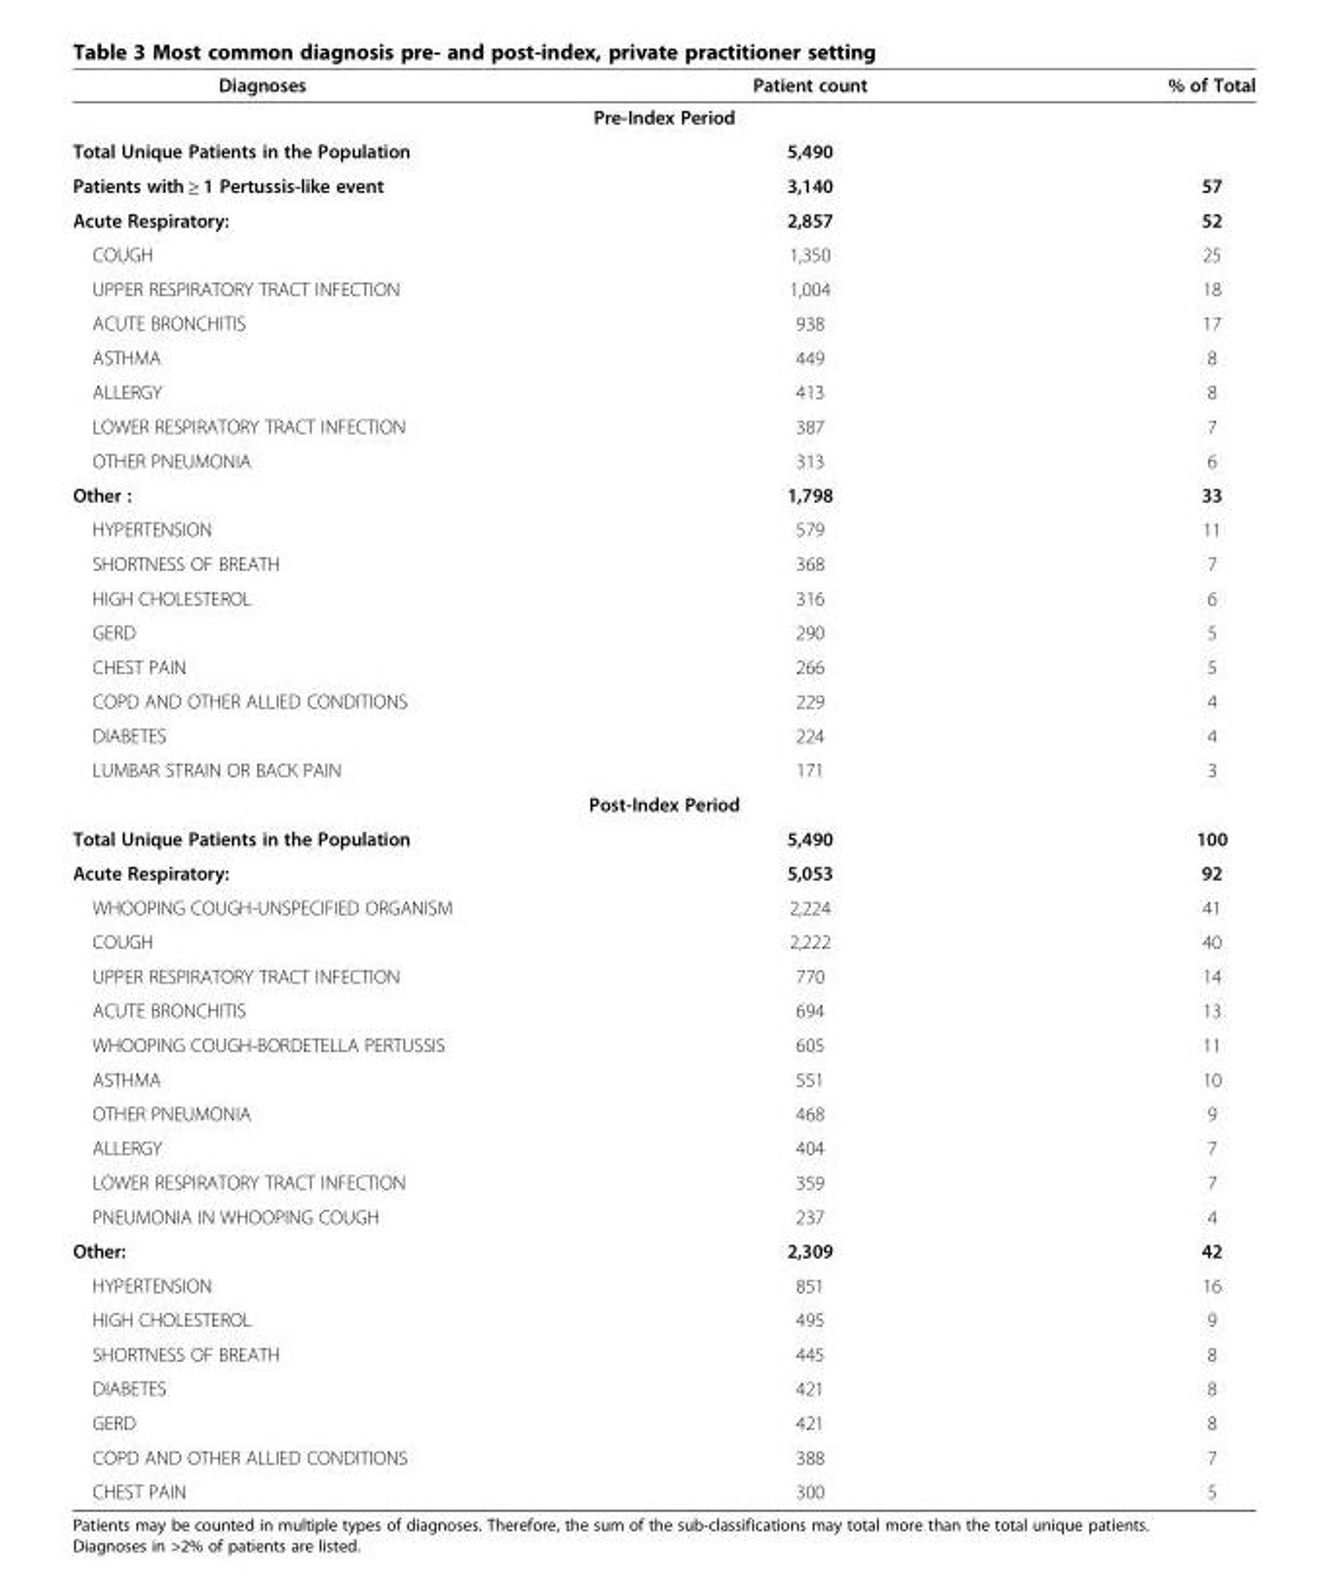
<table><thead><tr><td>Diagnoses</td><td>Patient count</td><td>% of Total</td></tr></thead><tbody><tr><td colspan="3">Pre-Index Period</td></tr><tr><td>Total Unique Patients in the Population</td><td>5,490</td><td></td></tr><tr><td>Patients with ≥ 1 Pertussis-like event</td><td>3,140</td><td>57</td></tr><tr><td>Acute Respiratory:</td><td>2,857</td><td>52</td></tr><tr><td>COUGH</td><td>1,350</td><td>25</td></tr><tr><td>UPPER RESPIRATORY TRACT INFECTION</td><td>1,004</td><td>18</td></tr><tr><td>ACUTE BRONCHITIS</td><td>938</td><td>17</td></tr><tr><td>ASTHMA</td><td>449</td><td>8</td></tr><tr><td>ALLERGY</td><td>413</td><td>8</td></tr><tr><td>LOWER RESPIRATORY TRACT INFECTION</td><td>387</td><td>7</td></tr><tr><td>OTHER PNEUMONIA</td><td>313</td><td>6</td></tr><tr><td>Other :</td><td>1,798</td><td>33</td></tr><tr><td>HYPERTENSION</td><td>579</td><td>11</td></tr><tr><td>SHORTNESS OF BREATH</td><td>368</td><td>7</td></tr><tr><td>HIGH CHOLESTEROL</td><td>316</td><td>6</td></tr><tr><td>GERD</td><td>290</td><td>5</td></tr><tr><td>CHEST PAIN</td><td>266</td><td>5</td></tr><tr><td>COPD AND OTHER ALLIED CONDITIONS</td><td>229</td><td>4</td></tr><tr><td>DIABETES</td><td>224</td><td>4</td></tr><tr><td>LUMBAR STRAIN OR BACK PAIN</td><td>171</td><td>3</td></tr><tr><td colspan="3">Post-Index Period</td></tr><tr><td>Total Unique Patients in the Population</td><td>5,490</td><td>100</td></tr><tr><td>Acute Respiratory:</td><td>5,053</td><td>92</td></tr><tr><td>WHOOPING COUGH-UNSPECIFIED ORGANISM</td><td>2,224</td><td>41</td></tr><tr><td>COUGH</td><td>2,222</td><td>40</td></tr><tr><td>UPPER RESPIRATORY TRACT INFECTION</td><td>770</td><td>14</td></tr><tr><td>ACUTE BRONCHITIS</td><td>694</td><td>13</td></tr><tr><td>WHOOPING COUGH-BORDETELLA PERTUSSIS</td><td>605</td><td>11</td></tr><tr><td>ASTHMA</td><td>551</td><td>10</td></tr><tr><td>OTHER PNEUMONIA</td><td>468</td><td>9</td></tr><tr><td>ALLERGY</td><td>404</td><td>7</td></tr><tr><td>LOWER RESPIRATORY TRACT INFECTION</td><td>359</td><td>7</td></tr><tr><td>PNEUMONIA IN WHOOPING COUGH</td><td>237</td><td>4</td></tr><tr><td>Other:</td><td>2,309</td><td>42</td></tr><tr><td>HYPERTENSION</td><td>851</td><td>16</td></tr><tr><td>HIGH CHOLESTEROL</td><td>495</td><td>9</td></tr><tr><td>SHORTNESS OF BREATH</td><td>445</td><td>8</td></tr><tr><td>DIABETES</td><td>421</td><td>8</td></tr><tr><td>GERD</td><td>421</td><td>8</td></tr><tr><td>COPD AND OTHER ALLIED CONDITIONS</td><td>388</td><td>7</td></tr><tr><td>CHEST PAIN</td><td>300</td><td>5</td></tr></tbody></table>